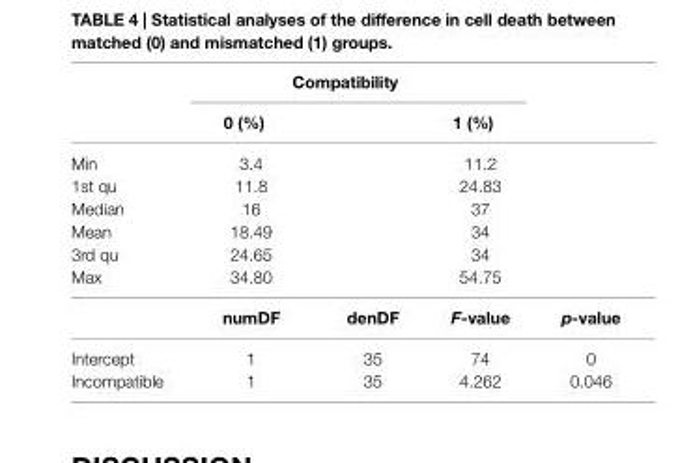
<table><thead><tr><td rowspan="2"></td><td colspan="3">compatibility</td><td rowspan="2"></td></tr><tr><td>0 (%)</td><td></td><td>1 (%)</td></tr></thead><tbody><tr><td>Min</td><td>3.4</td><td></td><td>11.2</td><td></td></tr><tr><td>1st qu</td><td>11.8</td><td></td><td>24.83</td><td></td></tr><tr><td>Median</td><td>16</td><td></td><td>37</td><td></td></tr><tr><td>Mean</td><td>18.49</td><td></td><td>34</td><td></td></tr><tr><td>3rd qu</td><td>24.65</td><td></td><td>34</td><td></td></tr><tr><td rowspan="2">Max</td><td>34.80</td><td></td><td>54.75</td><td></td></tr><tr><td>numDF</td><td>denDF</td><td>F-value</td><td>p-value</td></tr><tr><td>Intercept</td><td>1</td><td>35</td><td>74</td><td>0</td></tr><tr><td>Incompatible</td><td>1</td><td>35</td><td>4.262</td><td>0.046</td></tr></tbody></table>